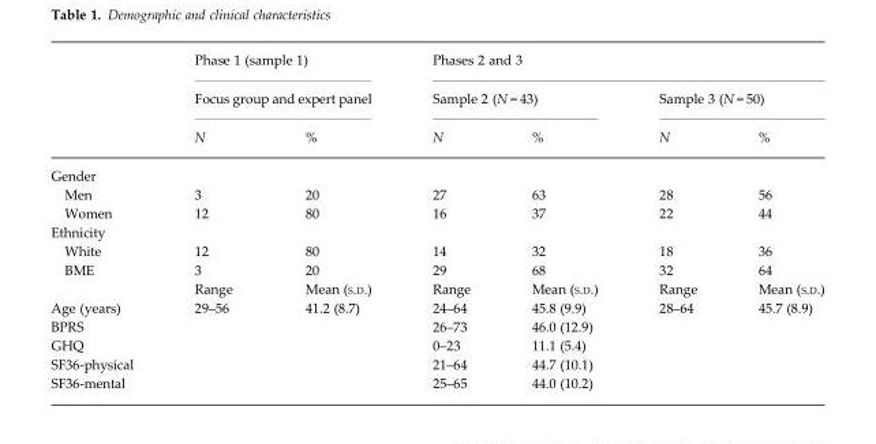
<table><thead><tr><td rowspan="3"></td><td rowspan="2" colspan="2">Phase 1 (sample 1) Focus group and expert panel</td><td colspan="4">Phases 2 and 3</td></tr><tr><td colspan="2">Sample 2 (N = 43)</td><td colspan="2">Sample 3 (N = 50)</td></tr><tr><td>N</td><td>%</td><td>N</td><td>%</td><td>N</td><td>%</td></tr></thead><tbody><tr><td colspan="7">Gender</td></tr><tr><td>Men</td><td>3</td><td>20</td><td>27</td><td>63</td><td>28</td><td>56</td></tr><tr><td>Women</td><td>12</td><td>80</td><td>16</td><td>37</td><td>22</td><td>44</td></tr><tr><td colspan="7">Ethnicity</td></tr><tr><td>White</td><td>12</td><td>80</td><td>14</td><td>32</td><td>18</td><td>36</td></tr><tr><td rowspan="2">BME</td><td>3</td><td>20</td><td>29</td><td>68</td><td>32</td><td>64</td></tr><tr><td>Range</td><td>Mean (S.D.)</td><td>Range</td><td>Mean (S.D.)</td><td>Range</td><td>Mean (S.D.)</td></tr><tr><td>Age (years)</td><td>29–56</td><td>41.2 (8.7)</td><td>24–64</td><td>45.8 (9.9)</td><td>28–64</td><td>45.7 (8.9)</td></tr><tr><td>BPRS</td><td></td><td></td><td>26–73</td><td>46.0 (12.9)</td><td></td><td></td></tr><tr><td>GHQ</td><td></td><td></td><td>0–23</td><td>11.1 (5.4)</td><td></td><td></td></tr><tr><td>SF36-physical</td><td></td><td></td><td>21–64</td><td>44.7 (10.1)</td><td></td><td></td></tr><tr><td>SF36-mental</td><td></td><td></td><td>25–65</td><td>44.0 (10.2)</td><td></td><td></td></tr></tbody></table>